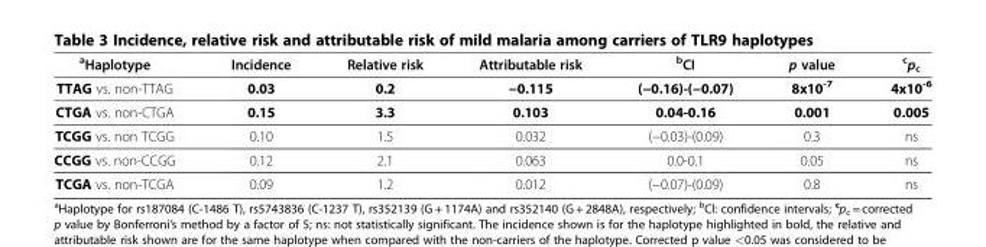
<table><thead><tr><td><sup>a</sup>Haplotype</td><td>Incidence</td><td>Relative risk</td><td>Attributable risk</td><td><sup>b</sup>CI</td><td>p value</td><td><sup>c</sup>p<sub>c</sub></td></tr></thead><tbody><tr><td>TTAG vs. non-TTAG</td><td>0.03</td><td>0.2</td><td>−0.115</td><td>(−0.16)-(−0.07)</td><td>8x10<sup>-7</sup></td><td>4x10<sup>-6</sup></td></tr><tr><td>CTGA vs. non-CTGA</td><td>0.15</td><td>3.3</td><td>0.103</td><td>0.04-0.16</td><td>0.001</td><td>0.005</td></tr><tr><td>TCGG vs. non TCGG</td><td>0.10</td><td>1.5</td><td>0.032</td><td>(−0.03)-(0.09)</td><td>0.3</td><td>ns</td></tr><tr><td>CCGG vs. non-CCGG</td><td>0.12</td><td>2.1</td><td>0.063</td><td>0.0-0.1</td><td>0.05</td><td>ns</td></tr><tr><td>TCGA vs. non-TCGA</td><td>0.09</td><td>1.2</td><td>0.012</td><td>(−0.07)-(0.09)</td><td>0.8</td><td>ns</td></tr></tbody></table>